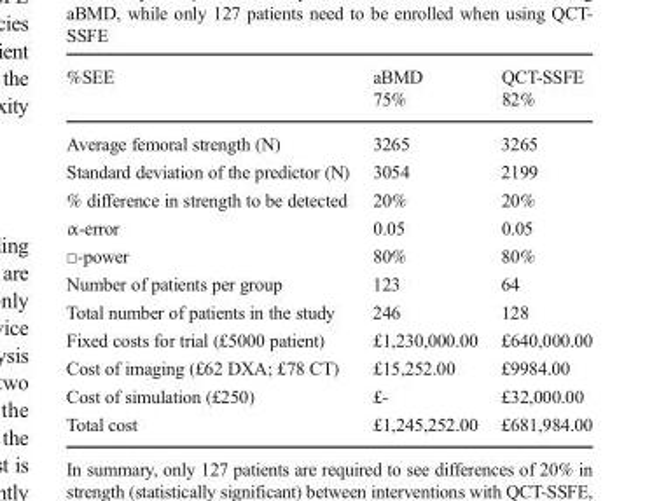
<table><thead><tr><td rowspan="2">%SEE</td><td rowspan="2">aBMD 75%</td><td rowspan="2">QCT-SSFE 82%</td></tr><tr></tr></thead><tbody><tr><td>Average femoral strength (N)</td><td>3265</td><td>3265</td></tr><tr><td>Standard deviation of the predictor (N)</td><td>3054</td><td>2199</td></tr><tr><td>% difference in strength to be detected</td><td>20%</td><td>20%</td></tr><tr><td>α-error</td><td>0.05</td><td>0.05</td></tr><tr><td>□-power</td><td>80%</td><td>80%</td></tr><tr><td>Number of patients per group</td><td>123</td><td>64</td></tr><tr><td>Total number of patients in the study</td><td>246</td><td>128</td></tr><tr><td>Fixed costs for trial (£5000 patient)</td><td>£1,230,000.00</td><td>£640,000.00</td></tr><tr><td>Cost of imaging (£62 DXA; £78 CT)</td><td>£15,252.00</td><td>£9984.00</td></tr><tr><td>Cost of simulation (£250)</td><td>£-</td><td>£32,000.00</td></tr><tr><td>Total cost</td><td>£1,245,252.00</td><td>£681,984.00</td></tr></tbody></table>